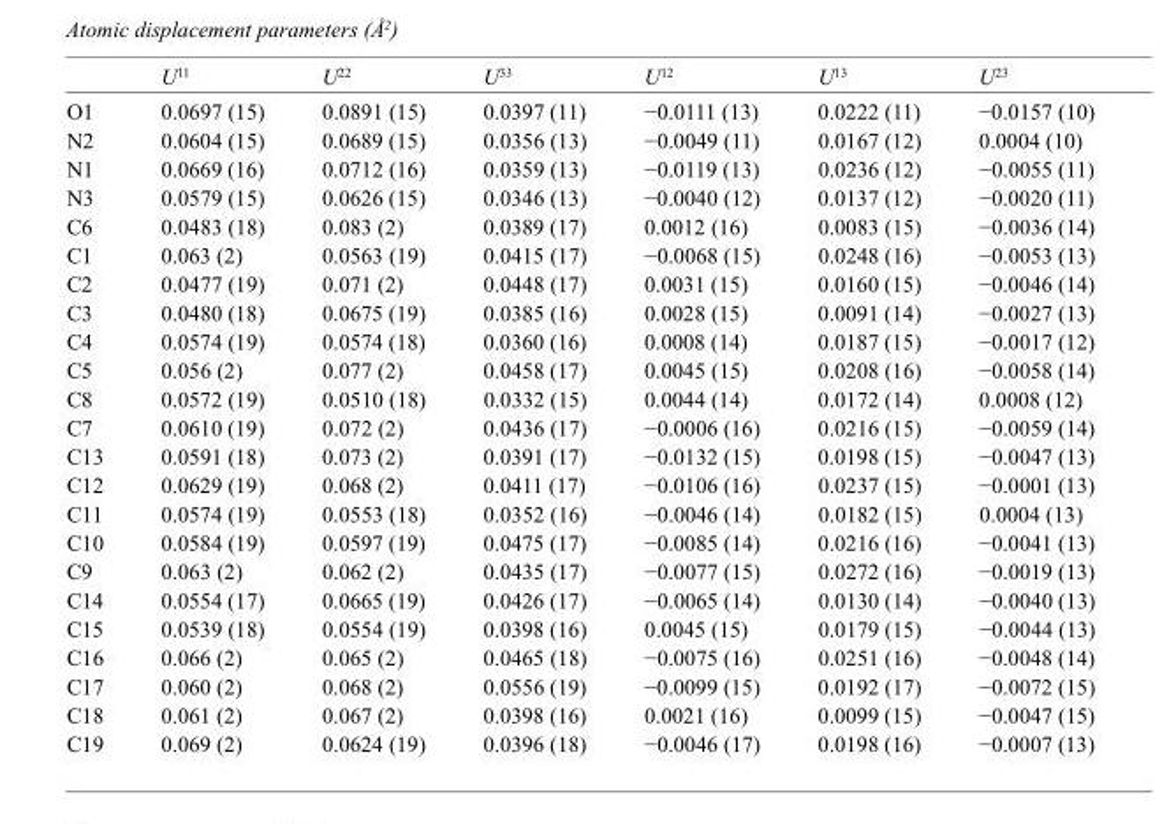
<table><thead><tr><td></td><td>U<sup>11</sup></td><td>U<sup>22</sup></td><td>U<sup>33</sup></td><td>U<sup>12</sup></td><td>U<sup>13</sup></td><td>U<sup>23</sup></td></tr></thead><tbody><tr><td>O1</td><td>0.0697 (15)</td><td>0.0891 (15)</td><td>0.0397 (11)</td><td>−0.0111 (13)</td><td>0.0222 (11)</td><td>−0.0157 (10)</td></tr><tr><td>N2</td><td>0.0604 (15)</td><td>0.0689 (15)</td><td>0.0356 (13)</td><td>−0.0049 (11)</td><td>0.0167 (12)</td><td>0.0004 (10)</td></tr><tr><td>N1</td><td>0.0669 (16)</td><td>0.0712 (16)</td><td>0.0359 (13)</td><td>−0.0119 (13)</td><td>0.0236 (12)</td><td>−0.0055 (11)</td></tr><tr><td>N3</td><td>0.0579 (15)</td><td>0.0626 (15)</td><td>0.0346 (13)</td><td>−0.0040 (12)</td><td>0.0137 (12)</td><td>−0.0020 (11)</td></tr><tr><td>C6</td><td>0.0483 (18)</td><td>0.083 (2)</td><td>0.0389 (17)</td><td>0.0012 (16)</td><td>0.0083 (15)</td><td>−0.0036 (14)</td></tr><tr><td>C1</td><td>0.063 (2)</td><td>0.0563 (19)</td><td>0.0415 (17)</td><td>−0.0068 (15)</td><td>0.0248 (16)</td><td>−0.0053 (13)</td></tr><tr><td>C2</td><td>0.0477 (19)</td><td>0.071 (2)</td><td>0.0448 (17)</td><td>0.0031 (15)</td><td>0.0160 (15)</td><td>−0.0046 (14)</td></tr><tr><td>C3</td><td>0.0480 (18)</td><td>0.0675 (19)</td><td>0.0385 (16)</td><td>0.0028 (15)</td><td>0.0091 (14)</td><td>−0.0027 (13)</td></tr><tr><td>C4</td><td>0.0574 (19)</td><td>0.0574 (18)</td><td>0.0360 (16)</td><td>0.0008 (14)</td><td>0.0187 (15)</td><td>−0.0017 (12)</td></tr><tr><td>C5</td><td>0.056 (2)</td><td>0.077 (2)</td><td>0.0458 (17)</td><td>0.0045 (15)</td><td>0.0208 (16)</td><td>−0.0058 (14)</td></tr><tr><td>C8</td><td>0.0572 (19)</td><td>0.0510 (18)</td><td>0.0332 (15)</td><td>0.0044 (14)</td><td>0.0172 (14)</td><td>0.0008 (12)</td></tr><tr><td>C7</td><td>0.0610 (19)</td><td>0.072 (2)</td><td>0.0436 (17)</td><td>−0.0006 (16)</td><td>0.0216 (15)</td><td>−0.0059 (14)</td></tr><tr><td>C13</td><td>0.0591 (18)</td><td>0.073 (2)</td><td>0.0391 (17)</td><td>−0.0132 (15)</td><td>0.0198 (15)</td><td>−0.0047 (13)</td></tr><tr><td>C12</td><td>0.0629 (19)</td><td>0.068 (2)</td><td>0.0411 (17)</td><td>−0.0106 (16)</td><td>0.0237 (15)</td><td>−0.0001 (13)</td></tr><tr><td>C11</td><td>0.0574 (19)</td><td>0.0553 (18)</td><td>0.0352 (16)</td><td>−0.0046 (14)</td><td>0.0182 (15)</td><td>0.0004 (13)</td></tr><tr><td>C10</td><td>0.0584 (19)</td><td>0.0597 (19)</td><td>0.0475 (17)</td><td>−0.0085 (14)</td><td>0.0216 (16)</td><td>−0.0041 (13)</td></tr><tr><td>C9</td><td>0.063 (2)</td><td>0.062 (2)</td><td>0.0435 (17)</td><td>−0.0077 (15)</td><td>0.0272 (16)</td><td>−0.0019 (13)</td></tr><tr><td>C14</td><td>0.0554 (17)</td><td>0.0665 (19)</td><td>0.0426 (17)</td><td>−0.0065 (14)</td><td>0.0130 (14)</td><td>−0.0040 (13)</td></tr><tr><td>C15</td><td>0.0539 (18)</td><td>0.0554 (19)</td><td>0.0398 (16)</td><td>0.0045 (15)</td><td>0.0179 (15)</td><td>−0.0044 (13)</td></tr><tr><td>C16</td><td>0.066 (2)</td><td>0.065 (2)</td><td>0.0465 (18)</td><td>−0.0075 (16)</td><td>0.0251 (16)</td><td>−0.0048 (14)</td></tr><tr><td>C17</td><td>0.060 (2)</td><td>0.068 (2)</td><td>0.0556 (19)</td><td>−0.0099 (15)</td><td>0.0192 (17)</td><td>−0.0072 (15)</td></tr><tr><td>C18</td><td>0.061 (2)</td><td>0.067 (2)</td><td>0.0398 (16)</td><td>0.0021 (16)</td><td>0.0099 (15)</td><td>−0.0047 (15)</td></tr><tr><td>C19</td><td>0.069 (2)</td><td>0.0624 (19)</td><td>0.0396 (18)</td><td>−0.0046 (17)</td><td>0.0198 (16)</td><td>−0.0007 (13)</td></tr></tbody></table>